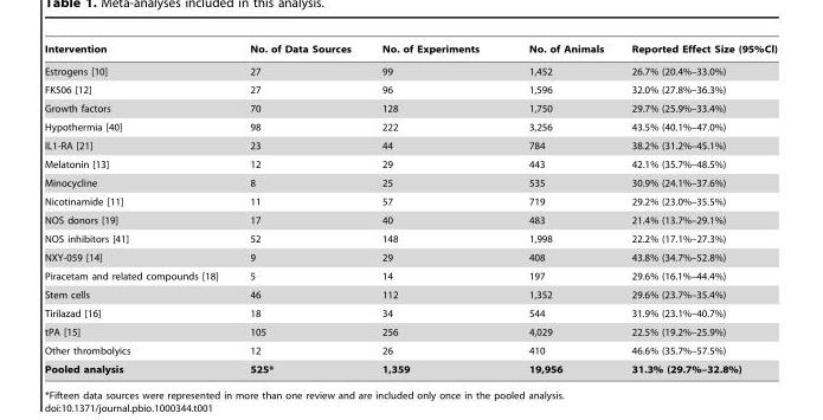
<table><thead><tr><td>Intervention</td><td>No. of Data Sources</td><td>No. of Experiments</td><td>No. of Animals</td><td>Reported Effect Size (95%Cl)</td></tr></thead><tbody><tr><td>Estrogens [10]</td><td>27</td><td>99</td><td>1,452</td><td>26.7% (20.4%–33.0%)</td></tr><tr><td>FK506 [12]</td><td>27</td><td>96</td><td>1,596</td><td>32.0% (27.8%–36.3%)</td></tr><tr><td>Growth factors</td><td>70</td><td>128</td><td>1,750</td><td>29.7% (25.9%–33.4%)</td></tr><tr><td>Hypothermia [40]</td><td>98</td><td>222</td><td>3,256</td><td>43.5% (40.1%–47.0%)</td></tr><tr><td>IL1-RA [21]</td><td>23</td><td>44</td><td>784</td><td>38.2% (31.2%–45.1%)</td></tr><tr><td>Melatonin [13]</td><td>12</td><td>29</td><td>443</td><td>42.1% (35.7%–48.5%)</td></tr><tr><td>Minocycline</td><td>8</td><td>25</td><td>535</td><td>30.9% (24.1%–37.6%)</td></tr><tr><td>Nicotinamide [11]</td><td>11</td><td>57</td><td>719</td><td>29.2% (23.0%–35.5%)</td></tr><tr><td>NOS donors [19]</td><td>17</td><td>40</td><td>483</td><td>21.4% (13.7%–29.1%)</td></tr><tr><td>NOS inhibitors [41]</td><td>52</td><td>148</td><td>1,998</td><td>22.2% (17.1%–27.3%)</td></tr><tr><td>NXY-059 [14]</td><td>9</td><td>29</td><td>408</td><td>43.8% (34.7%–52.8%)</td></tr><tr><td>Piracetam and related compounds [18]</td><td>5</td><td>14</td><td>197</td><td>29.6% (16.1%–44.4%)</td></tr><tr><td>Stem cells</td><td>46</td><td>112</td><td>1,352</td><td>29.6% (23.7%–35.4%)</td></tr><tr><td>Tirilazad [16]</td><td>18</td><td>34</td><td>544</td><td>31.9% (23.1%–40.7%)</td></tr><tr><td>tPA [15]</td><td>105</td><td>256</td><td>4,029</td><td>22.5% (19.2%–25.9%)</td></tr><tr><td>Other thrombolyics</td><td>12</td><td>26</td><td>410</td><td>46.6% (35.7%–57.5%)</td></tr><tr><td>Pooled analysis</td><td>525*</td><td>1,359</td><td>19,956</td><td>31.3% (29.7%–32.8%)</td></tr></tbody></table>